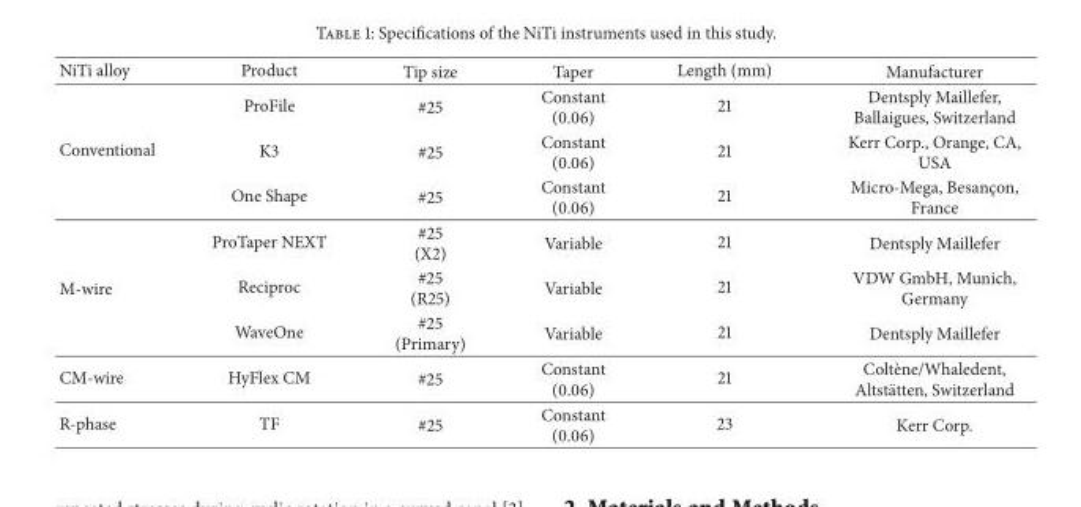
<table><thead><tr><td>NiTi alloy</td><td>Product</td><td>Tip size</td><td>Taper</td><td>Length (mm)</td><td>Manufacturer</td></tr></thead><tbody><tr><td rowspan="3">Conventional</td><td>ProFile</td><td>#25</td><td>Constant (0.06)</td><td>21</td><td>Dentsply Maillefer, Ballaigues, Switzerland</td></tr><tr><td>K3</td><td>#25</td><td>Constant (0.06)</td><td>21</td><td>Kerr Corp., Orange, CA, USA</td></tr><tr><td>One Shape</td><td>#25</td><td>Constant (0.06)</td><td>21</td><td>Micro-Mega, Besanc¸on, France</td></tr><tr><td rowspan="3">M-wire</td><td>ProTaper NEXT</td><td>#25 (X2)</td><td>Variable</td><td>21</td><td>Dentsply Maillefer</td></tr><tr><td>Reciproc</td><td>#25 (R25)</td><td>Variable</td><td>21</td><td>VDW GmbH, Munich, Germany</td></tr><tr><td>WaveOne</td><td>#25 (Primary)</td><td>Variable</td><td>21</td><td>Dentsply Maillefer</td></tr><tr><td>CM-wire</td><td>HyFlex CM</td><td>#25</td><td>Constant (0.06)</td><td>21</td><td>Colt`ene/Whaledent, Altst¨atten, Switzerland</td></tr><tr><td>R-phase</td><td>TF</td><td>#25</td><td>Constant (0.06)</td><td>23</td><td>Kerr Corp.</td></tr></tbody></table>